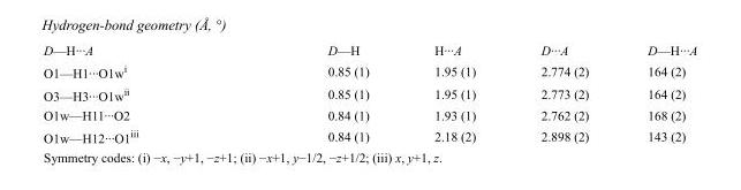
<table><tbody><tr><td>D—H···A</td><td>D—H</td><td>H···A</td><td>D···A</td><td>D—H···A</td></tr><tr><td>O1—H1···O1w<sup>i</sup></td><td>0.85 (1)</td><td>1.95 (1)</td><td>2.774 (2)</td><td>164 (2)</td></tr><tr><td>O3—H3···O1w<sup>ii</sup></td><td>0.85 (1)</td><td>1.95 (1)</td><td>2.773 (2)</td><td>164 (2)</td></tr><tr><td>O1w—H11···O2</td><td>0.84 (1)</td><td>1.93 (1)</td><td>2.762 (2)</td><td>168 (2)</td></tr><tr><td>O1w—H12···O1<sup>iii</sup></td><td>0.84 (1)</td><td>2.18 (2)</td><td>2.898 (2)</td><td>143 (2)</td></tr></tbody></table>